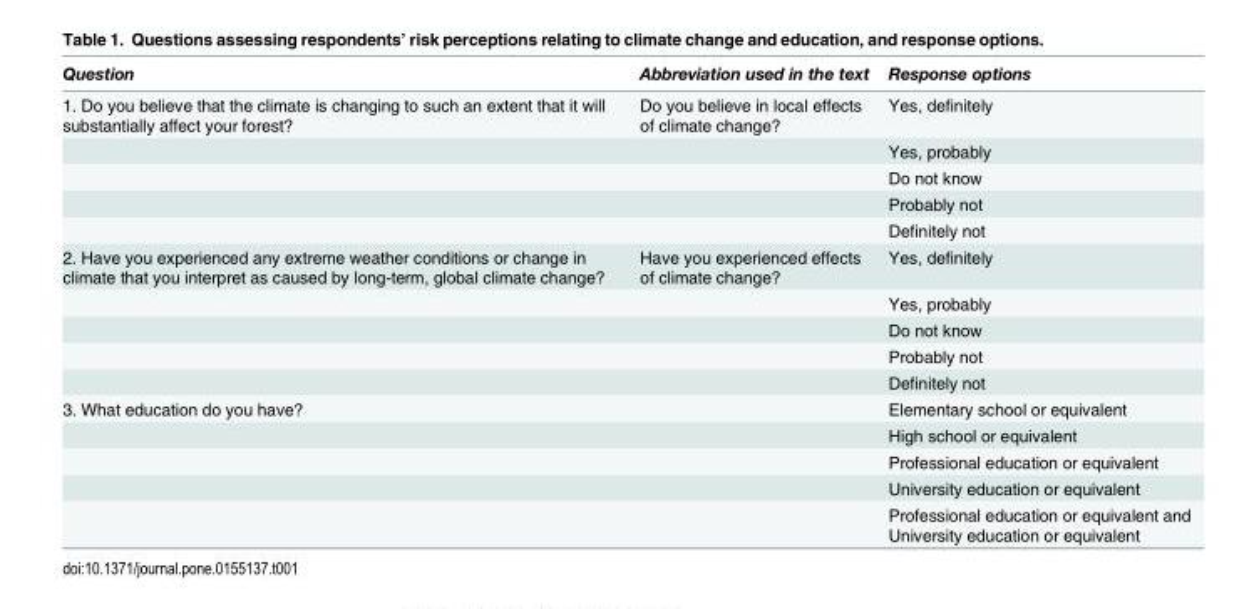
<table><thead><tr><td>Question</td><td>Abbreviation used in the text</td><td>Response options</td></tr></thead><tbody><tr><td rowspan="5">1. Do you believe that the climate is changing to such an extent that it will substantially affect your forest?</td><td>Do you believe in local effects of climate change?</td><td>Yes, definitely</td></tr><tr><td></td><td>Yes, probably</td></tr><tr><td></td><td>Do not know</td></tr><tr><td></td><td>Probably not</td></tr><tr><td></td><td>Definitely not</td></tr><tr><td rowspan="5">2. Have you experienced any extreme weather conditions or change in climate that you interpret as caused by long-term, global climate change?</td><td>Have you experienced effects of climate change?</td><td>Yes, definitely</td></tr><tr><td></td><td>Yes, probably</td></tr><tr><td></td><td>Do not know</td></tr><tr><td></td><td>Probably not</td></tr><tr><td></td><td>Definitely not</td></tr><tr><td rowspan="5">3. What education do you have?</td><td></td><td>Elementary school or equivalent</td></tr><tr><td></td><td>High school or equivalent</td></tr><tr><td></td><td>Professional education or equivalent</td></tr><tr><td></td><td>University education or equivalent</td></tr><tr><td></td><td>Professional education or equivalent and University education or equivalent</td></tr></tbody></table>